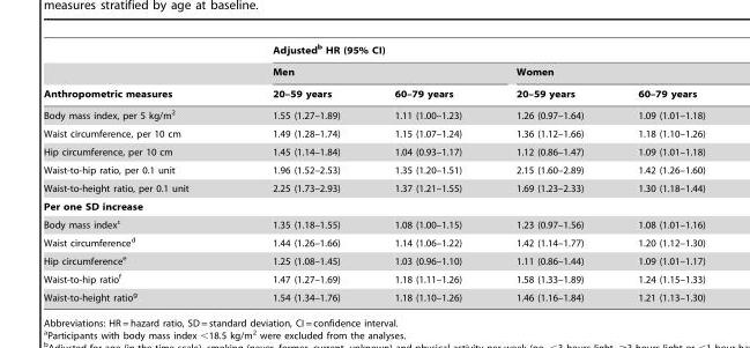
<table><thead><tr><td rowspan="3">Anthropometric measures</td><td colspan="4">Adjusted<sup>b</sup> HR (95% CI)</td></tr><tr><td colspan="2">Men</td><td colspan="2">Women</td></tr><tr><td>20–59 years</td><td>60–79 years</td><td>20–59 years</td><td>60–79 years</td></tr></thead><tbody><tr><td>Body mass index, per 5 kg/m<sup>2</sup></td><td>1.55 (1.27–1.89)</td><td>1.11 (1.00–1.23)</td><td>1.26 (0.97–1.64)</td><td>1.09 (1.01–1.18)</td></tr><tr><td>Waist circumference, per 10 cm</td><td>1.49 (1.28–1.74)</td><td>1.15 (1.07–1.24)</td><td>1.36 (1.12–1.66)</td><td>1.18 (1.10–1.26)</td></tr><tr><td>Hip circumference, per 10 cm</td><td>1.45 (1.14–1.84)</td><td>1.04 (0.93–1.17)</td><td>1.12 (0.86–1.47)</td><td>1.09 (1.01–1.18)</td></tr><tr><td>Waist-to-hip ratio, per 0.1 unit</td><td>1.96 (1.52–2.53)</td><td>1.35 (1.20–1.51)</td><td>2.15 (1.60–2.89)</td><td>1.42 (1.26–1.60)</td></tr><tr><td>Waist-to-height ratio, per 0.1 unit</td><td>2.25 (1.73–2.93)</td><td>1.37 (1.21–1.55)</td><td>1.69 (1.23–2.33)</td><td>1.30 (1.18–1.44)</td></tr><tr><td colspan="5">Per one SD increase</td></tr><tr><td>Body mass index<sup>c</sup></td><td>1.35 (1.18–1.55)</td><td>1.08 (1.00–1.15)</td><td>1.23 (0.97–1.56)</td><td>1.08 (1.01–1.16)</td></tr><tr><td>Waist circumference<sup>d</sup></td><td>1.44 (1.26–1.66)</td><td>1.14 (1.06–1.22)</td><td>1.42 (1.14–1.77)</td><td>1.20 (1.12–1.30)</td></tr><tr><td>Hip circumference<sup>e</sup></td><td>1.25 (1.08–1.45)</td><td>1.03 (0.96–1.10)</td><td>1.11 (0.86–1.44)</td><td>1.09 (1.01–1.17)</td></tr><tr><td>Waist-to-hip ratio<sup>f</sup></td><td>1.47 (1.27–1.69)</td><td>1.18 (1.11–1.26)</td><td>1.58 (1.33–1.89)</td><td>1.24 (1.15–1.33)</td></tr><tr><td>Waist-to-height ratio<sup>g</sup></td><td>1.54 (1.34–1.76)</td><td>1.18 (1.10–1.26)</td><td>1.46 (1.16–1.84)</td><td>1.21 (1.13–1.30)</td></tr></tbody></table>